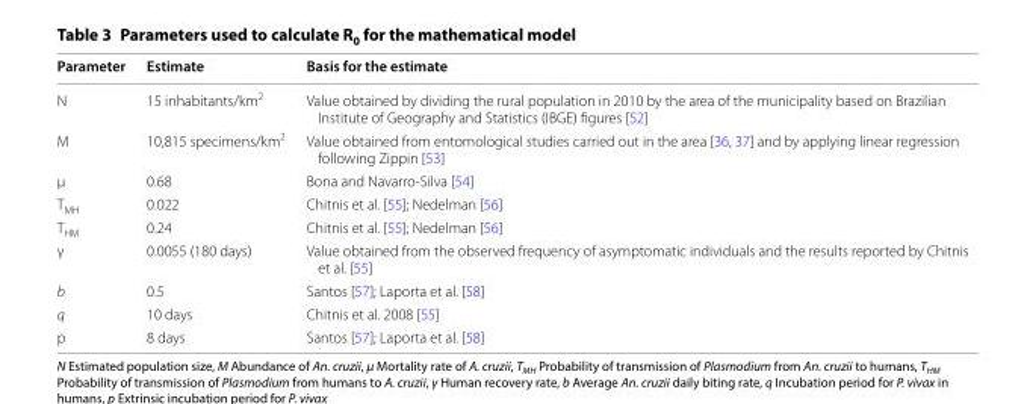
<table><thead><tr><td>Parameter</td><td>Estimate</td><td>Basis for the estimate</td></tr></thead><tbody><tr><td>N</td><td>15 inhabitants/km<sup>2</sup></td><td>Value obtained by dividing the rural population in 2010 by the area of the municipality based on Brazilian Institute of Geography and Statistics (IBGE) figures [52]</td></tr><tr><td>M</td><td>10,815 specimens/km<sup>2</sup></td><td>Value obtained from entomological studies carried out in the area [36, 37] and by applying linear regression following Zippin [53]</td></tr><tr><td>μ</td><td>0.68</td><td>Bona and Navarro‑Silva [54]</td></tr><tr><td>T<sub>MH</sub></td><td>0.022</td><td>Chitnis et al. [55]; Nedelman [56]</td></tr><tr><td>T<sub>HM</sub></td><td>0.24</td><td>Chitnis et al. [55]; Nedelman [56]</td></tr><tr><td>γ</td><td>0.0055 (180 days)</td><td>Value obtained from the observed frequency of asymptomatic individuals and the results reported by Chitnis et al. [55]</td></tr><tr><td>b</td><td>0.5</td><td>Santos [57]; Laporta et al. [58]</td></tr><tr><td>q</td><td>10 days</td><td>Chitnis et al. 2008 [55]</td></tr><tr><td>p</td><td>8 days</td><td>Santos [57]; Laporta et al. [58]</td></tr></tbody></table>